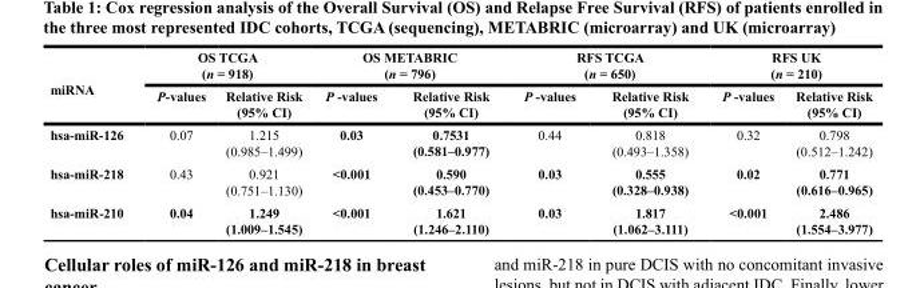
<table><thead><tr><td rowspan="2">miRNA</td><td colspan="2">OS TCGA (n = 918)</td><td colspan="2">OS METABRIC (n = 796)</td><td colspan="2">RFS TCGA (n = 650)</td><td colspan="2">RFS UK (n = 210)</td></tr><tr><td>P-values</td><td>Relative Risk (95% CI)</td><td>P -values</td><td>Relative Risk (95% CI)</td><td>P -values</td><td>Relative Risk (95% CI)</td><td>P -values</td><td>Relative Risk (95% CI)</td></tr></thead><tbody><tr><td>hsa-miR-126</td><td>0.07</td><td>1.215 (0.985–1.499)</td><td>0.03</td><td>0.7531 (0.581–0.977)</td><td>0.44</td><td>0.818 (0.493–1.358)</td><td>0.32</td><td>0.798 (0.512–1.242)</td></tr><tr><td>hsa-miR-218</td><td>0.43</td><td>0.921 (0.751–1.130)</td><td>&lt;0.001</td><td>0.590 (0.453–0.770)</td><td>0.03</td><td>0.555 (0.328–0.938)</td><td>0.02</td><td>0.771 (0.616–0.965)</td></tr><tr><td>hsa-miR-210</td><td>0.04</td><td>1.249 (1.009–1.545)</td><td>&lt;0.001</td><td>1.621 (1.246–2.110)</td><td>0.03</td><td>1.817 (1.062–3.111)</td><td>&lt;0.001</td><td>2.486 (1.554–3.977)</td></tr></tbody></table>